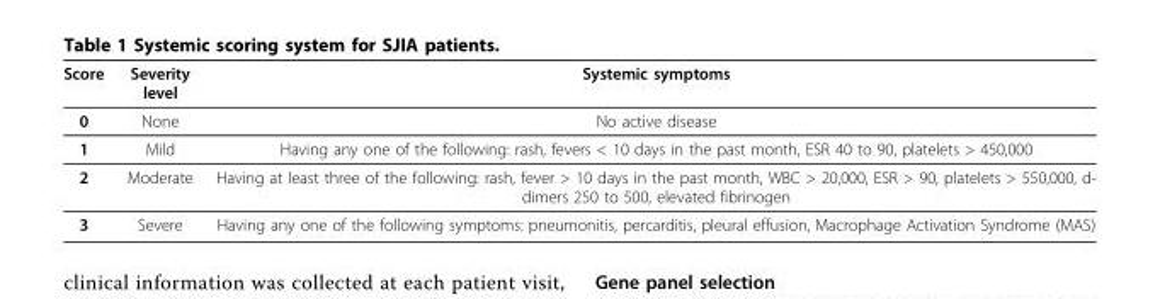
<table><thead><tr><td>Score</td><td>Severity level</td><td>Systemic symptoms</td></tr></thead><tbody><tr><td>0</td><td>None</td><td>No active disease</td></tr><tr><td>1</td><td>Mild</td><td>Having any one of the following: rash, fevers &lt; 10 days in the past month, ESR 40 to 90, platelets &gt; 450,000</td></tr><tr><td>2</td><td>Moderate</td><td>Having at least three of the following: rash, fever &gt; 10 days in the past month, WBC &gt; 20,000, ESR &gt; 90, platelets &gt; 550,000, d- dimers 250 to 500, elevated fibrinogen</td></tr><tr><td>3</td><td>Severe</td><td>Having any one of the following symptoms: pneumonitis, percarditis, pleural effusion, Macrophage Activation Syndrome (MAS)</td></tr></tbody></table>